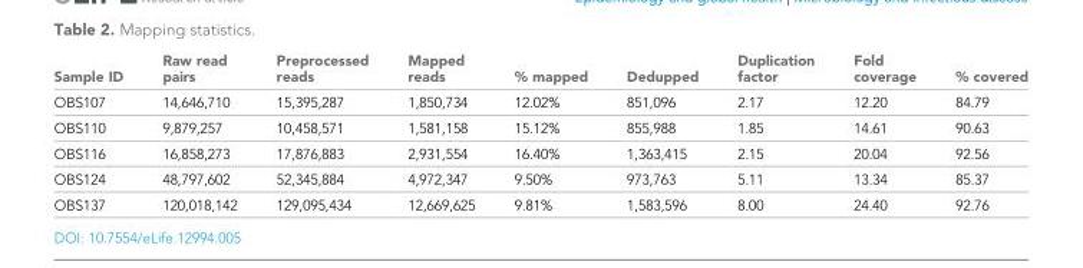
<table><thead><tr><td>Sample ID</td><td>Raw read pairs</td><td>Preprocessed reads</td><td>Mapped reads</td><td>% mapped</td><td>Dedupped</td><td>Duplication factor</td><td>Fold coverage</td><td>% covered</td></tr></thead><tbody><tr><td>OBS107</td><td>14,646,710</td><td>15,395,287</td><td>1,850,734</td><td>12.02%</td><td>851,096</td><td>2.17</td><td>12.20</td><td>84.79</td></tr><tr><td>OBS110</td><td>9,879,257</td><td>10,458,571</td><td>1,581,158</td><td>15.12%</td><td>855,988</td><td>1.85</td><td>14.61</td><td>90.63</td></tr><tr><td>OBS116</td><td>16,858,273</td><td>17,876,883</td><td>2,931,554</td><td>16.40%</td><td>1,363,415</td><td>2.15</td><td>20.04</td><td>92.56</td></tr><tr><td>OBS124</td><td>48,797,602</td><td>52,345,884</td><td>4,972,347</td><td>9.50%</td><td>973,763</td><td>5.11</td><td>13.34</td><td>85.37</td></tr><tr><td>OBS137</td><td>120,018,142</td><td>129,095,434</td><td>12,669,625</td><td>9.81%</td><td>1,583,596</td><td>8.00</td><td>24.40</td><td>92.76</td></tr></tbody></table>